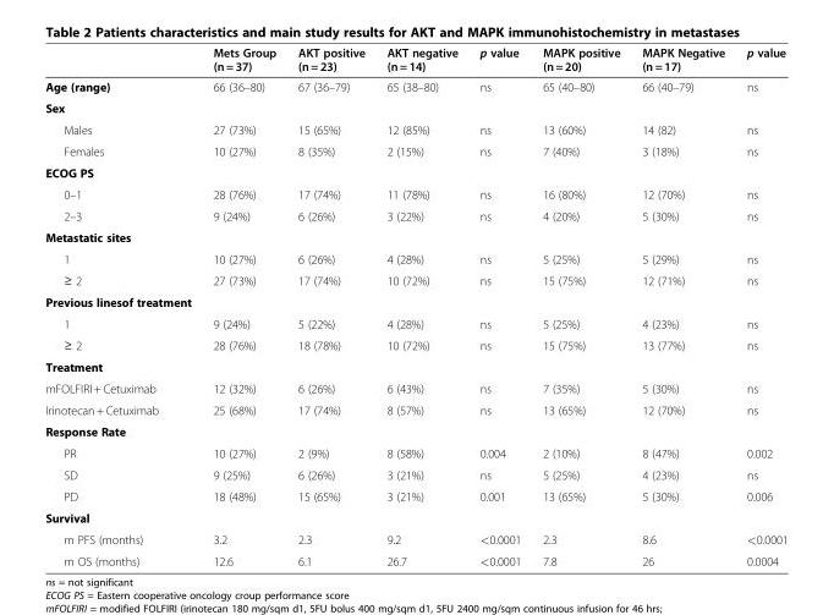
<table><thead><tr><td></td><td>Mets Group (n = 37)</td><td>AKT positive (n = 23)</td><td>AKT negative (n = 14)</td><td>p value</td><td>MAPK positive (n = 20)</td><td>MAPK Negative (n = 17)</td><td>p value</td></tr></thead><tbody><tr><td>Age (range)</td><td>66 (36–80)</td><td>67 (36–79)</td><td>65 (38–80)</td><td>ns</td><td>65 (40–80)</td><td>66 (40–79)</td><td>ns</td></tr><tr><td colspan="8">Sex</td></tr><tr><td>Males</td><td>27 (73%)</td><td>15 (65%)</td><td>12 (85%)</td><td>ns</td><td>13 (60%)</td><td>14 (82)</td><td>ns</td></tr><tr><td>Females</td><td>10 (27%)</td><td>8 (35%)</td><td>2 (15%)</td><td>ns</td><td>7 (40%)</td><td>3 (18%)</td><td>ns</td></tr><tr><td colspan="8">ECOG PS</td></tr><tr><td>0–1</td><td>28 (76%)</td><td>17 (74%)</td><td>11 (78%)</td><td>ns</td><td>16 (80%)</td><td>12 (70%)</td><td>ns</td></tr><tr><td>2–3</td><td>9 (24%)</td><td>6 (26%)</td><td>3 (22%)</td><td>ns</td><td>4 (20%)</td><td>5 (30%)</td><td>ns</td></tr><tr><td colspan="8">Metastatic sites</td></tr><tr><td>1</td><td>10 (27%)</td><td>6 (26%)</td><td>4 (28%)</td><td>ns</td><td>5 (25%)</td><td>5 (29%)</td><td>ns</td></tr><tr><td>≥ 2</td><td>27 (73%)</td><td>17 (74%)</td><td>10 (72%)</td><td>ns</td><td>15 (75%)</td><td>12 (71%)</td><td>ns</td></tr><tr><td colspan="8">Previous linesof treatment</td></tr><tr><td>1</td><td>9 (24%)</td><td>5 (22%)</td><td>4 (28%)</td><td>ns</td><td>5 (25%)</td><td>4 (23%)</td><td>ns</td></tr><tr><td>≥ 2</td><td>28 (76%)</td><td>18 (78%)</td><td>10 (72%)</td><td>ns</td><td>15 (75%)</td><td>13 (77%)</td><td>ns</td></tr><tr><td colspan="8">Treatment</td></tr><tr><td>mFOLFIRI + Cetuximab</td><td>12 (32%)</td><td>6 (26%)</td><td>6 (43%)</td><td>ns</td><td>7 (35%)</td><td>5 (30%)</td><td>ns</td></tr><tr><td>Irinotecan + Cetuximab</td><td>25 (68%)</td><td>17 (74%)</td><td>8 (57%)</td><td>ns</td><td>13 (65%)</td><td>12 (70%)</td><td>ns</td></tr><tr><td colspan="8">Response Rate</td></tr><tr><td>PR</td><td>10 (27%)</td><td>2 (9%)</td><td>8 (58%)</td><td>0.004</td><td>2 (10%)</td><td>8 (47%)</td><td>0.002</td></tr><tr><td>SD</td><td>9 (25%)</td><td>6 (26%)</td><td>3 (21%)</td><td>ns</td><td>5 (25%)</td><td>4 (23%)</td><td>ns</td></tr><tr><td>PD</td><td>18 (48%)</td><td>15 (65%)</td><td>3 (21%)</td><td>0.001</td><td>13 (65%)</td><td>5 (30%)</td><td>0.006</td></tr><tr><td colspan="8">Survival</td></tr><tr><td>m PFS (months)</td><td>3.2</td><td>2.3</td><td>9.2</td><td>&lt;0.0001</td><td>2.3</td><td>8.6</td><td>&lt;0.0001</td></tr><tr><td>m OS (months)</td><td>12.6</td><td>6.1</td><td>26.7</td><td>&lt;0.0001</td><td>7.8</td><td>26</td><td>0.0004</td></tr></tbody></table>